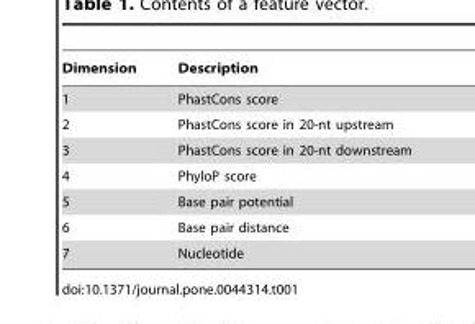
<table><thead><tr><td>Dimension</td><td>Description</td></tr></thead><tbody><tr><td>1</td><td>PhastCons score</td></tr><tr><td>2</td><td>PhastCons score in 20-nt upstream</td></tr><tr><td>3</td><td>PhastCons score in 20-nt downstream</td></tr><tr><td>4</td><td>PhyloP score</td></tr><tr><td>5</td><td>Base pair potential</td></tr><tr><td>6</td><td>Base pair distance</td></tr><tr><td>7</td><td>Nucleotide</td></tr></tbody></table>